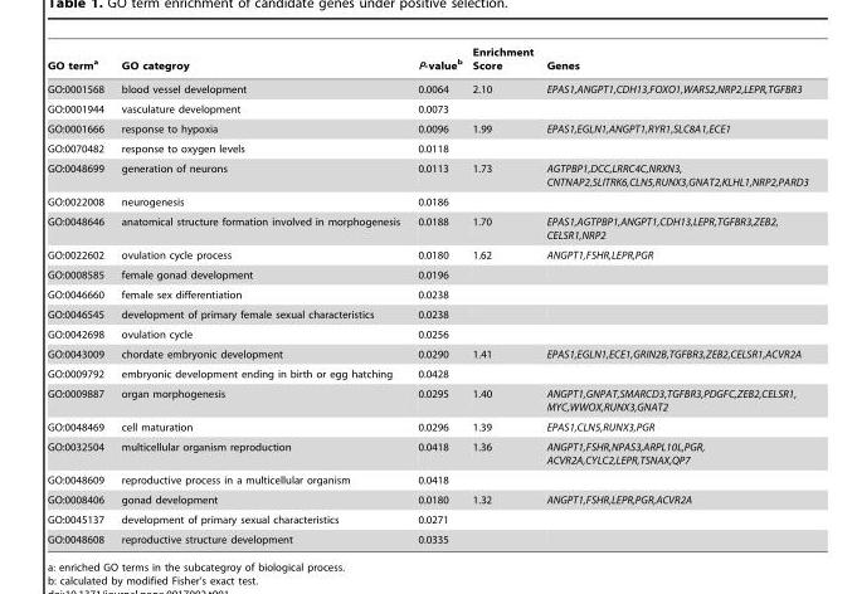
<table><thead><tr><td>GO term<sup>a</sup></td><td>GO categroy</td><td>P-value<sup>b</sup></td><td>Enrichment Score</td><td>Genes</td></tr></thead><tbody><tr><td>GO:0001568</td><td>blood vessel development</td><td>0.0064</td><td>2.10</td><td>EPAS1,ANGPT1,CDH13,FOXO1,WARS2,NRP2,LEPR,TGFBR3</td></tr><tr><td>GO:0001944</td><td>vasculature development</td><td>0.0073</td><td></td><td></td></tr><tr><td>GO:0001666</td><td>response to hypoxia</td><td>0.0096</td><td>1.99</td><td>EPAS1,EGLN1,ANGPT1,RYR1,SLC8A1,ECE1</td></tr><tr><td>GO:0070482</td><td>response to oxygen levels</td><td>0.0118</td><td></td><td></td></tr><tr><td>GO:0048699</td><td>generation of neurons</td><td>0.0113</td><td>1.73</td><td>AGTPBP1,DCC,LRRC4C,NRXN3, CNTNAP2,SLITRK6,CLN5,RUNX3,GNAT2,KLHL1,NRP2,PARD3</td></tr><tr><td>GO:0022008</td><td>neurogenesis</td><td>0.0186</td><td></td><td></td></tr><tr><td>GO:0048646</td><td>anatomical structure formation involved in morphogenesis</td><td>0.0188</td><td>1.70</td><td>EPAS1,AGTPBP1,ANGPT1,CDH13,LEPR,TGFBR3,ZEB2, CELSR1,NRP2</td></tr><tr><td>GO:0022602</td><td>ovulation cycle process</td><td>0.0180</td><td>1.62</td><td>ANGPT1,FSHR,LEPR,PGR</td></tr><tr><td>GO:0008585</td><td>female gonad development</td><td>0.0196</td><td></td><td></td></tr><tr><td>GO:0046660</td><td>female sex differentiation</td><td>0.0238</td><td></td><td></td></tr><tr><td>GO:0046545</td><td>development of primary female sexual characteristics</td><td>0.0238</td><td></td><td></td></tr><tr><td>GO:0042698</td><td>ovulation cycle</td><td>0.0256</td><td></td><td></td></tr><tr><td>GO:0043009</td><td>chordate embryonic development</td><td>0.0290</td><td>1.41</td><td>EPAS1,EGLN1,ECE1,GRIN2B,TGFBR3,ZEB2,CELSR1,ACVR2A</td></tr><tr><td>GO:0009792</td><td>embryonic development ending in birth or egg hatching</td><td>0.0428</td><td></td><td></td></tr><tr><td>GO:0009887</td><td>organ morphogenesis</td><td>0.0295</td><td>1.40</td><td>ANGPT1,GNPAT,SMARCD3,TGFBR3,PDGFC,ZEB2,CELSR1, MYC,WWOX,RUNX3,GNAT2</td></tr><tr><td>GO:0048469</td><td>cell maturation</td><td>0.0296</td><td>1.39</td><td>EPAS1,CLN5,RUNX3,PGR</td></tr><tr><td>GO:0032504</td><td>multicellular organism reproduction</td><td>0.0418</td><td>1.36</td><td>ANGPT1,FSHR,NPAS3,ARPL10L,PGR, ACVR2A,CYLC2,LEPR,TSNAX,QP7</td></tr><tr><td>GO:0048609</td><td>reproductive process in a multicellular organism</td><td>0.0418</td><td></td><td></td></tr><tr><td>GO:0008406</td><td>gonad development</td><td>0.0180</td><td>1.32</td><td>ANGPT1,FSHR,LEPR,PGR,ACVR2A</td></tr><tr><td>GO:0045137</td><td>development of primary sexual characteristics</td><td>0.0271</td><td></td><td></td></tr><tr><td>GO:0048608</td><td>reproductive structure development</td><td>0.0335</td><td></td><td></td></tr></tbody></table>